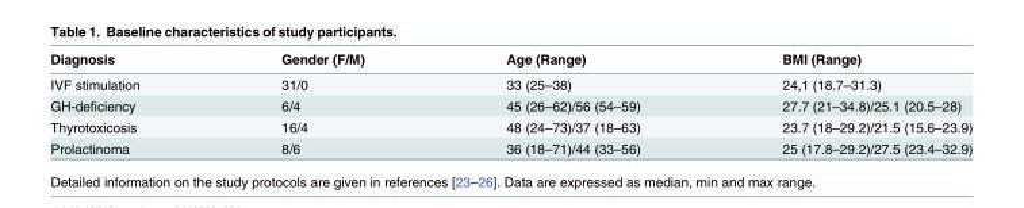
<table><thead><tr><td>Diagnosis</td><td>Gender (F/M)</td><td>Age (Range)</td><td>BMI (Range)</td></tr></thead><tbody><tr><td>IVF stimulation</td><td>31/0</td><td>33 (25–38)</td><td>24,1 (18.7–31.3)</td></tr><tr><td>GH-deficiency</td><td>6/4</td><td>45 (26–62)/56 (54–59)</td><td>27.7 (21–34.8)/25.1 (20.5–28)</td></tr><tr><td>Thyrotoxicosis</td><td>16/4</td><td>48 (24–73)/37 (18–63)</td><td>23.7 (18–29.2)/21.5 (15.6–23.9)</td></tr><tr><td>Prolactinoma</td><td>8/6</td><td>36 (18–71)/44 (33–56)</td><td>25 (17.8–29.2)/27.5 (23.4–32.9)</td></tr></tbody></table>